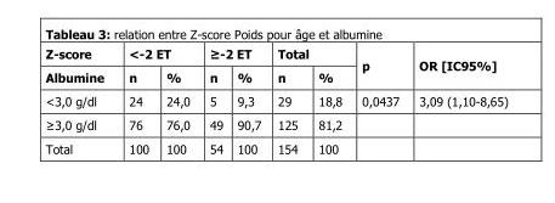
<table><thead><tr><td rowspan="2">Z-score Albumine</td><td colspan="2">&lt;-2 ET</td><td colspan="2">≥-2 ET</td><td colspan="2">Total</td><td rowspan="2">p</td><td rowspan="2">OR [IC95%]</td></tr><tr><td>n</td><td>%</td><td>n</td><td>%</td><td>n</td><td>%</td></tr></thead><tbody><tr><td>&lt;3,0 g/dl</td><td>24</td><td>24,0</td><td>5</td><td>9,3</td><td>29</td><td>18,8</td><td>0,0437</td><td>3,09 (1,10-8,65)</td></tr><tr><td>≥3,0 g/dl</td><td>76</td><td>76,0</td><td>49</td><td>90,7</td><td>125</td><td>81,2</td><td></td><td></td></tr><tr><td>Total</td><td>100</td><td>100</td><td>54</td><td>100</td><td>154</td><td>100</td><td></td><td></td></tr></tbody></table>